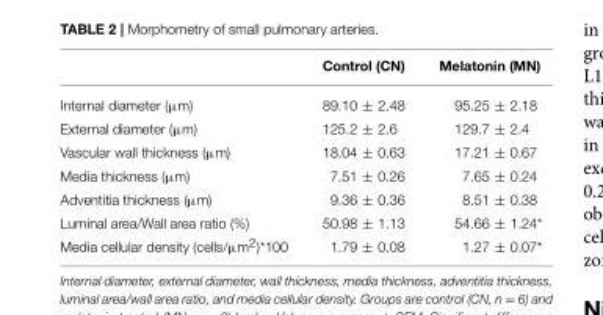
<table><thead><tr><td></td><td>Control (CN)</td><td>Melatonin (MN)</td></tr></thead><tbody><tr><td>Internal diameter (µm)</td><td>89.10 ± 2.48</td><td>95.25 ± 2.18</td></tr><tr><td>External diameter (µm)</td><td>125.2 ± 2.6</td><td>129.7 ± 2.4</td></tr><tr><td>Vascular wall thickness (µm)</td><td>18.04 ± 0.63</td><td>17.21 ± 0.67</td></tr><tr><td>Media thickness (µm)</td><td>7.51 ± 0.26</td><td>7.65 ± 0.24</td></tr><tr><td>Adventitia thickness (µm)</td><td>9.36 ± 0.36</td><td>8.51 ± 0.38</td></tr><tr><td>Luminal area/Wall area ratio (%)</td><td>50.98 ± 1.13</td><td>54.66 ± 1.24*</td></tr><tr><td>Media cellular density (cells/µm<sup>2</sup>)*100</td><td>1.79 ± 0.08</td><td>1.27 ± 0.07*</td></tr></tbody></table>